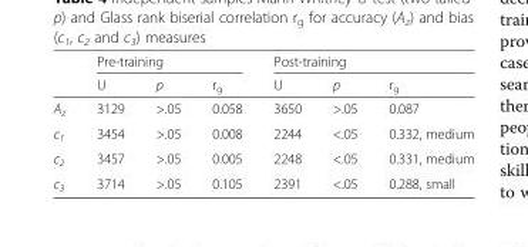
<table><thead><tr><td rowspan="2"></td><td colspan="3">Pre-training</td><td colspan="3">Post-training</td></tr><tr><td>U</td><td>p</td><td>r<sub>g</sub></td><td>U</td><td>p</td><td>r<sub>g</sub></td></tr></thead><tbody><tr><td>A<sub>z</sub></td><td>3129</td><td>&gt;.05</td><td>0.058</td><td>3650</td><td>&gt;.05</td><td>0.087</td></tr><tr><td>c<sub>1</sub></td><td>3454</td><td>&gt;.05</td><td>0.008</td><td>2244</td><td>&lt;.05</td><td>0.332, medium</td></tr><tr><td>c<sub>2</sub></td><td>3457</td><td>&gt;.05</td><td>0.005</td><td>2248</td><td>&lt;.05</td><td>0.331, medium</td></tr><tr><td>c<sub>3</sub></td><td>3714</td><td>&gt;.05</td><td>0.105</td><td>2391</td><td>&lt;.05</td><td>0.288, small</td></tr></tbody></table>